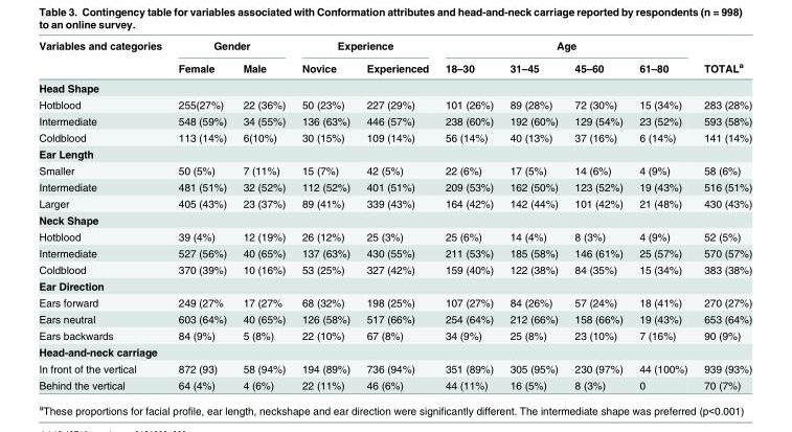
<table><thead><tr><td rowspan="2">Variables and categories</td><td colspan="2">Gender</td><td colspan="2">Experience</td><td colspan="4">Age</td><td rowspan="2">TOTAL<sup>a</sup></td></tr><tr><td>Female</td><td>Male</td><td>Novice</td><td>Experienced</td><td>18–30</td><td>31–45</td><td>45–60</td><td>61–80</td></tr></thead><tbody><tr><td colspan="10">Head Shape</td></tr><tr><td>Hotblood</td><td>255(27%)</td><td>22 (36%)</td><td>50 (23%)</td><td>227 (29%)</td><td>101 (26%)</td><td>89 (28%)</td><td>72 (30%)</td><td>15 (34%)</td><td>283 (28%)</td></tr><tr><td>Intermediate</td><td>548 (59%)</td><td>34 (55%)</td><td>136 (63%)</td><td>446 (57%)</td><td>238 (60%)</td><td>192 (60%)</td><td>129 (54%)</td><td>23 (52%)</td><td>593 (58%)</td></tr><tr><td>Coldblood</td><td>113 (14%)</td><td>6(10%)</td><td>30 (15%)</td><td>109 (14%)</td><td>56 (14%)</td><td>40 (13%)</td><td>37 (16%)</td><td>6 (14%)</td><td>141 (14%)</td></tr><tr><td colspan="10">Ear Length</td></tr><tr><td>Smaller</td><td>50 (5%)</td><td>7 (11%)</td><td>15 (7%)</td><td>42 (5%)</td><td>22 (6%)</td><td>17 (5%)</td><td>14 (6%)</td><td>4 (9%)</td><td>58 (6%)</td></tr><tr><td>Intermediate</td><td>481 (51%)</td><td>32 (52%)</td><td>112 (52%)</td><td>401 (51%)</td><td>209 (53%)</td><td>162 (50%)</td><td>123 (52%)</td><td>19 (43%)</td><td>516 (51%)</td></tr><tr><td>Larger</td><td>405 (43%)</td><td>23 (37%)</td><td>89 (41%)</td><td>339 (43%)</td><td>164 (42%)</td><td>142 (44%)</td><td>101 (42%)</td><td>21 (48%)</td><td>430 (43%)</td></tr><tr><td colspan="10">Neck Shape</td></tr><tr><td>Hotblood</td><td>39 (4%)</td><td>12 (19%)</td><td>26 (12%)</td><td>25 (3%)</td><td>25 (6%)</td><td>14 (4%)</td><td>8 (3%)</td><td>4 (9%)</td><td>52 (5%)</td></tr><tr><td>Intermediate</td><td>527 (56%)</td><td>40 (65%)</td><td>137 (63%)</td><td>430 (55%)</td><td>211 (53%)</td><td>185 (58%)</td><td>146 (61%)</td><td>25 (57%)</td><td>570 (57%)</td></tr><tr><td>Coldblood</td><td>370 (39%)</td><td>10 (16%)</td><td>53 (25%)</td><td>327 (42%)</td><td>159 (40%)</td><td>122 (38%)</td><td>84 (35%)</td><td>15 (34%)</td><td>383 (38%)</td></tr><tr><td colspan="10">Ear Direction</td></tr><tr><td>Ears forward</td><td>249 (27%</td><td>17 (27%</td><td>68 (32%)</td><td>198 (25%)</td><td>107 (27%)</td><td>84 (26%)</td><td>57 (24%)</td><td>18 (41%)</td><td>270 (27%)</td></tr><tr><td>Ears neutral</td><td>603 (64%)</td><td>40 (65%)</td><td>126 (58%)</td><td>517 (66%)</td><td>254 (64%)</td><td>212 (66%)</td><td>158 (66%)</td><td>19 (43%)</td><td>653 (64%)</td></tr><tr><td>Ears backwards</td><td>84 (9%)</td><td>5 (8%)</td><td>22 (10%)</td><td>67 (8%)</td><td>34 (9%)</td><td>25 (8%)</td><td>23 (10%)</td><td>7 (16%)</td><td>90 (9%)</td></tr><tr><td colspan="10">Head-and-neck carriage</td></tr><tr><td>In front of the vertical</td><td>872 (93)</td><td>58 (94%)</td><td>194 (89%)</td><td>736 (94%)</td><td>351 (89%)</td><td>305 (95%)</td><td>230 (97%)</td><td>44 (100%)</td><td>939 (93%)</td></tr><tr><td>Behind the vertical</td><td>64 (4%)</td><td>4 (6%)</td><td>22 (11%)</td><td>46 (6%)</td><td>44 (11%)</td><td>16 (5%)</td><td>8 (3%)</td><td>0</td><td>70 (7%)</td></tr></tbody></table>